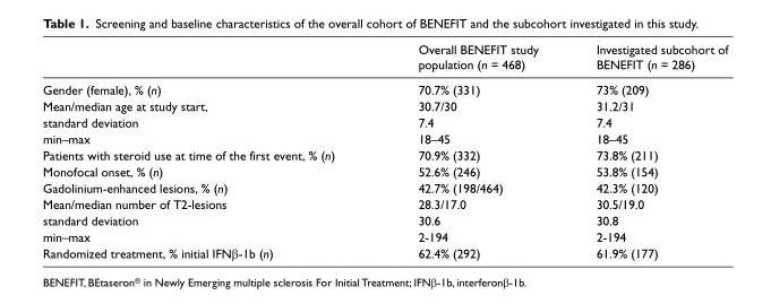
<table><thead><tr><td></td><td>Overall BENEFIT study population (n = 468)</td><td>Investigated subcohort of BENEFIT (n = 286)</td></tr></thead><tbody><tr><td>Gender (female), % (n)</td><td>70.7% (331)</td><td>73% (209)</td></tr><tr><td>Mean/median age at study start,</td><td>30.7/30</td><td>31.2/31</td></tr><tr><td>standard deviation</td><td>7.4</td><td>7.4</td></tr><tr><td>min–max</td><td>18–45</td><td>18–45</td></tr><tr><td>Patients with steroid use at time of the first event, % (n)</td><td>70.9% (332)</td><td>73.8% (211)</td></tr><tr><td>Monofocal onset, % (n)</td><td>52.6% (246)</td><td>53.8% (154)</td></tr><tr><td>Gadolinium-enhanced lesions, % (n)</td><td>42.7% (198/464)</td><td>42.3% (120)</td></tr><tr><td>Mean/median number of T2-lesions</td><td>28.3/17.0</td><td>30.5/19.0</td></tr><tr><td>standard deviation</td><td>30.6</td><td>30.8</td></tr><tr><td>min–max</td><td>2-194</td><td>2-194</td></tr><tr><td>Randomized treatment, % initial IFNβ-1b (n)</td><td>62.4% (292)</td><td>61.9% (177)</td></tr></tbody></table>